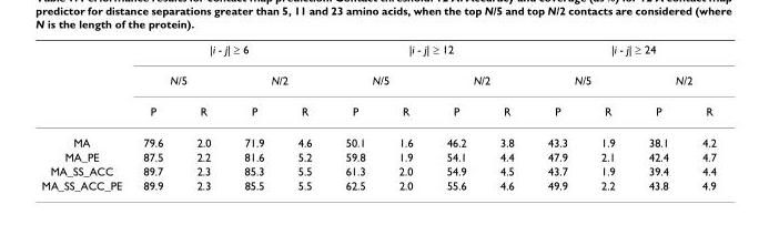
<table><thead><tr><td rowspan="3"></td><td colspan="4">|i - j| ≥ 6</td><td colspan="4">|i - j| ≥ 12</td><td colspan="4">|i - j| ≥ 24</td></tr><tr><td colspan="2">N/5</td><td colspan="2">N/2</td><td colspan="2">N/5</td><td colspan="2">N/2</td><td colspan="2">N/5</td><td colspan="2">N/2</td></tr><tr><td>P</td><td>R</td><td>P</td><td>R</td><td>P</td><td>R</td><td>P</td><td>R</td><td>P</td><td>R</td><td>P</td><td>R</td></tr></thead><tbody><tr><td>MA</td><td>79.6</td><td>2.0</td><td>71.9</td><td>4.6</td><td>50.1</td><td>1.6</td><td>46.2</td><td>3.8</td><td>43.3</td><td>1.9</td><td>38.1</td><td>4.2</td></tr><tr><td>MA_PE</td><td>87.5</td><td>2.2</td><td>81.6</td><td>5.2</td><td>59.8</td><td>1.9</td><td>54.1</td><td>4.4</td><td>47.9</td><td>2.1</td><td>42.4</td><td>4.7</td></tr><tr><td>MA_SS_ACC</td><td>89.7</td><td>2.3</td><td>85.3</td><td>5.5</td><td>61.3</td><td>2.0</td><td>54.9</td><td>4.5</td><td>43.7</td><td>1.9</td><td>39.4</td><td>4.4</td></tr><tr><td>MA_SS_ACC_PE</td><td>89.9</td><td>2.3</td><td>85.5</td><td>5.5</td><td>62.5</td><td>2.0</td><td>55.6</td><td>4.6</td><td>49.9</td><td>2.2</td><td>43.8</td><td>4.9</td></tr></tbody></table>